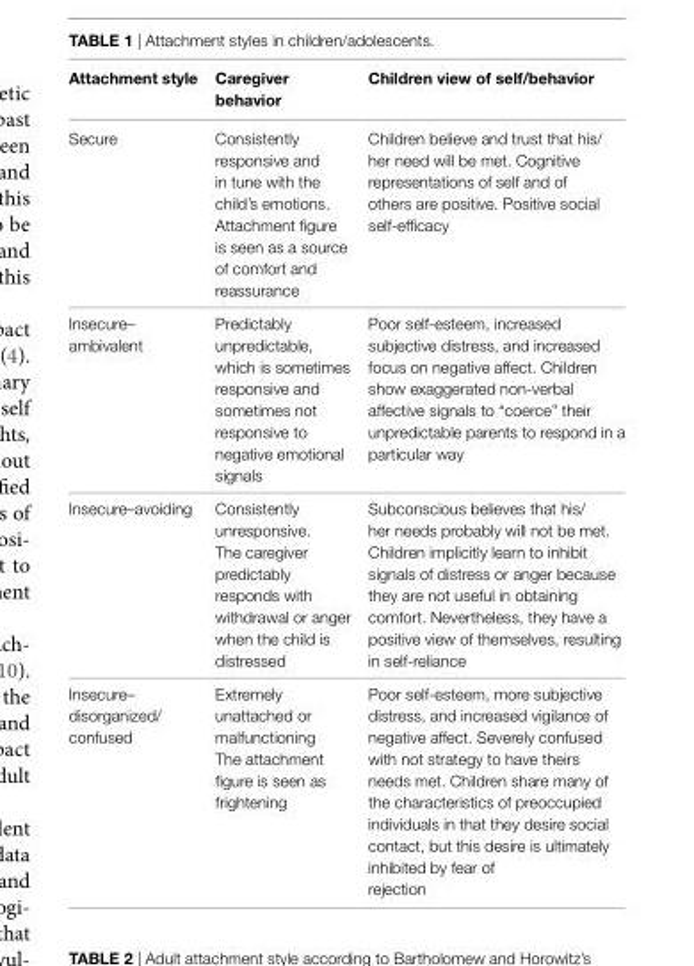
<table><thead><tr><td>attachment style</td><td>caregiver behavior</td><td>children view of self/behavior</td></tr></thead><tbody><tr><td>Secure</td><td>Consistently responsive and in tune with the child’s emotions. Attachment figure is seen as a source of comfort and reassurance</td><td>Children believe and trust that his/ her need will be met. Cognitive representations of self and of others are positive. Positive social self-efficacy</td></tr><tr><td>Insecure– ambivalent</td><td>Predictably unpredictable, which is sometimes responsive and sometimes not responsive to negative emotional signals</td><td>Poor self-esteem, increased subjective distress, and increased focus on negative affect. Children show exaggerated non-verbal affective signals to “coerce” their unpredictable parents to respond in a particular way</td></tr><tr><td>Insecure–avoiding</td><td>Consistently unresponsive. The caregiver predictably responds with withdrawal or anger when the child is distressed</td><td>Subconscious believes that his/ her needs probably will not be met. Children implicitly learn to inhibit signals of distress or anger because they are not useful in obtaining comfort. Nevertheless, they have a positive view of themselves, resulting in self-reliance</td></tr><tr><td rowspan="2">Insecure– disorganized/ confused</td><td>Extremely unattached or malfunctioning</td><td rowspan="2">Poor self-esteem, more subjective distress, and increased vigilance of negative affect. Severely confused with not strategy to have theirs needs met. Children share many of the characteristics of preoccupied individuals in that they desire social contact, but this desire is ultimately inhibited by fear of rejection</td></tr><tr><td>The attachment figure is seen as frightening</td></tr></tbody></table>